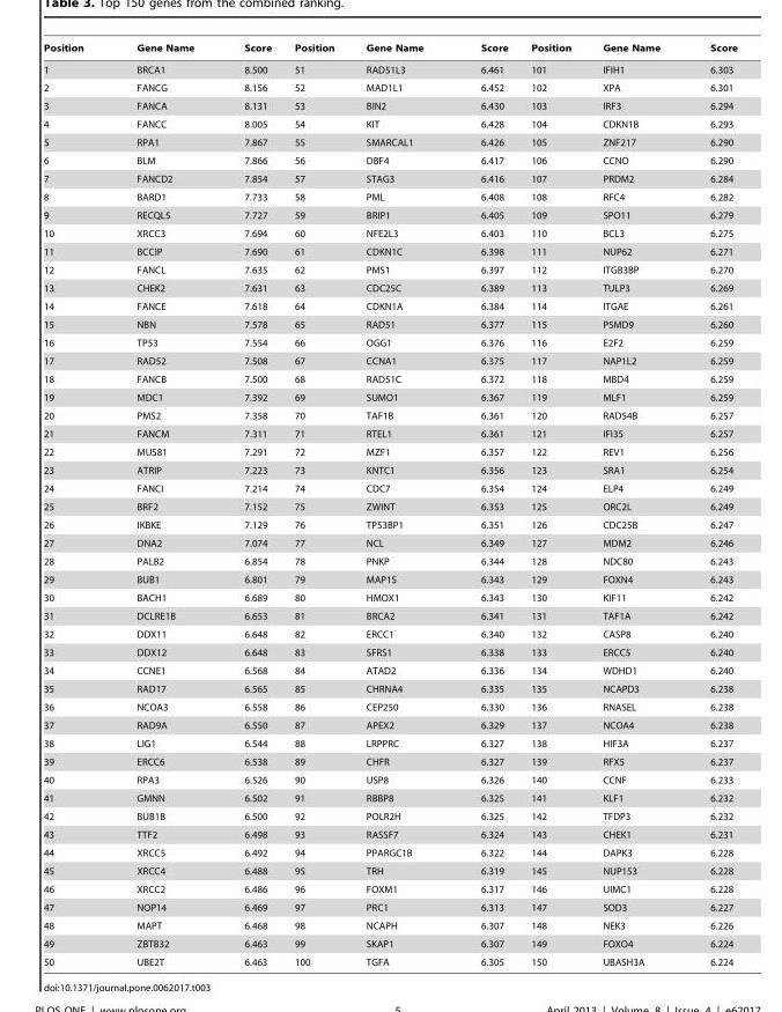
<table><thead><tr><td>Position</td><td>Gene Name</td><td>Score</td><td>Position</td><td>Gene Name</td><td>Score</td><td>Position</td><td>Gene Name</td><td>Score</td></tr></thead><tbody><tr><td>1</td><td>BRCA1</td><td>8.500</td><td>51</td><td>RAD51L3</td><td>6.461</td><td>101</td><td>IFIH1</td><td>6.303</td></tr><tr><td>2</td><td>FANCG</td><td>8.156</td><td>52</td><td>MAD1L1</td><td>6.452</td><td>102</td><td>XPA</td><td>6.301</td></tr><tr><td>3</td><td>FANCA</td><td>8.131</td><td>53</td><td>BIN2</td><td>6.430</td><td>103</td><td>IRF3</td><td>6.294</td></tr><tr><td>4</td><td>FANCC</td><td>8.005</td><td>54</td><td>KIT</td><td>6.428</td><td>104</td><td>CDKN1B</td><td>6.293</td></tr><tr><td>5</td><td>RPA1</td><td>7.867</td><td>55</td><td>SMARCAL1</td><td>6.426</td><td>105</td><td>ZNF217</td><td>6.290</td></tr><tr><td>6</td><td>BLM</td><td>7.866</td><td>56</td><td>DBF4</td><td>6.417</td><td>106</td><td>CCNO</td><td>6.290</td></tr><tr><td>7</td><td>FANCD2</td><td>7.854</td><td>57</td><td>STAG3</td><td>6.416</td><td>107</td><td>PRDM2</td><td>6.284</td></tr><tr><td>8</td><td>BARD1</td><td>7.733</td><td>58</td><td>PML</td><td>6.408</td><td>108</td><td>RFC4</td><td>6.282</td></tr><tr><td>9</td><td>RECQL5</td><td>7.727</td><td>59</td><td>BRIP1</td><td>6.405</td><td>109</td><td>SPO11</td><td>6.279</td></tr><tr><td>10</td><td>XRCC3</td><td>7.694</td><td>60</td><td>NFE2L3</td><td>6.403</td><td>110</td><td>BCL3</td><td>6.275</td></tr><tr><td>11</td><td>BCCIP</td><td>7.690</td><td>61</td><td>CDKN1C</td><td>6.398</td><td>111</td><td>NUP62</td><td>6.271</td></tr><tr><td>12</td><td>FANCL</td><td>7.635</td><td>62</td><td>PMS1</td><td>6.397</td><td>112</td><td>ITGB3BP</td><td>6.270</td></tr><tr><td>13</td><td>CHEK2</td><td>7.631</td><td>63</td><td>CDC25C</td><td>6.389</td><td>113</td><td>TULP3</td><td>6.269</td></tr><tr><td>14</td><td>FANCE</td><td>7.618</td><td>64</td><td>CDKN1A</td><td>6.384</td><td>114</td><td>ITGAE</td><td>6.261</td></tr><tr><td>15</td><td>NBN</td><td>7.578</td><td>65</td><td>RAD51</td><td>6.377</td><td>115</td><td>PSMD9</td><td>6.260</td></tr><tr><td>16</td><td>TP53</td><td>7.554</td><td>66</td><td>OGG1</td><td>6.376</td><td>116</td><td>E2F2</td><td>6.259</td></tr><tr><td>17</td><td>RAD52</td><td>7.508</td><td>67</td><td>CCNA1</td><td>6.375</td><td>117</td><td>NAP1L2</td><td>6.259</td></tr><tr><td>18</td><td>FANCB</td><td>7.500</td><td>68</td><td>RAD51C</td><td>6.372</td><td>118</td><td>MBD4</td><td>6.259</td></tr><tr><td>19</td><td>MDC1</td><td>7.392</td><td>69</td><td>SUMO1</td><td>6.367</td><td>119</td><td>MLF1</td><td>6.259</td></tr><tr><td>20</td><td>PMS2</td><td>7.358</td><td>70</td><td>TAF1B</td><td>6.361</td><td>120</td><td>RAD54B</td><td>6.257</td></tr><tr><td>21</td><td>FANCM</td><td>7.311</td><td>71</td><td>RTEL1</td><td>6.361</td><td>121</td><td>IFI35</td><td>6.257</td></tr><tr><td>22</td><td>MUS81</td><td>7.291</td><td>72</td><td>MZF1</td><td>6.357</td><td>122</td><td>REV1</td><td>6.256</td></tr><tr><td>23</td><td>ATRIP</td><td>7.223</td><td>73</td><td>KNTC1</td><td>6.356</td><td>123</td><td>SRA1</td><td>6.254</td></tr><tr><td>24</td><td>FANCI</td><td>7.214</td><td>74</td><td>CDC7</td><td>6.354</td><td>124</td><td>ELP4</td><td>6.249</td></tr><tr><td>25</td><td>BRF2</td><td>7.152</td><td>75</td><td>ZWINT</td><td>6.353</td><td>125</td><td>ORC2L</td><td>6.249</td></tr><tr><td>26</td><td>IKBKE</td><td>7.129</td><td>76</td><td>TP53BP1</td><td>6.351</td><td>126</td><td>CDC25B</td><td>6.247</td></tr><tr><td>27</td><td>DNA2</td><td>7.074</td><td>77</td><td>NCL</td><td>6.349</td><td>127</td><td>MDM2</td><td>6.246</td></tr><tr><td>28</td><td>PALB2</td><td>6.854</td><td>78</td><td>PNKP</td><td>6.344</td><td>128</td><td>NDC80</td><td>6.243</td></tr><tr><td>29</td><td>BUB1</td><td>6.801</td><td>79</td><td>MAP1S</td><td>6.343</td><td>129</td><td>FOXN4</td><td>6.243</td></tr><tr><td>30</td><td>BACH1</td><td>6.689</td><td>80</td><td>HMOX1</td><td>6.343</td><td>130</td><td>KIF11</td><td>6.242</td></tr><tr><td>31</td><td>DCLRE1B</td><td>6.653</td><td>81</td><td>BRCA2</td><td>6.341</td><td>131</td><td>TAF1A</td><td>6.242</td></tr><tr><td>32</td><td>DDX11</td><td>6.648</td><td>82</td><td>ERCC1</td><td>6.340</td><td>132</td><td>CASP8</td><td>6.240</td></tr><tr><td>33</td><td>DDX12</td><td>6.648</td><td>83</td><td>SFRS1</td><td>6.338</td><td>133</td><td>ERCC5</td><td>6.240</td></tr><tr><td>34</td><td>CCNE1</td><td>6.568</td><td>84</td><td>ATAD2</td><td>6.336</td><td>134</td><td>WDHD1</td><td>6.240</td></tr><tr><td>35</td><td>RAD17</td><td>6.565</td><td>85</td><td>CHRNA4</td><td>6.335</td><td>135</td><td>NCAPD3</td><td>6.238</td></tr><tr><td>36</td><td>NCOA3</td><td>6.558</td><td>86</td><td>CEP250</td><td>6.330</td><td>136</td><td>RNASEL</td><td>6.238</td></tr><tr><td>37</td><td>RAD9A</td><td>6.550</td><td>87</td><td>APEX2</td><td>6.329</td><td>137</td><td>NCOA4</td><td>6.238</td></tr><tr><td>38</td><td>LIG1</td><td>6.544</td><td>88</td><td>LRPPRC</td><td>6.327</td><td>138</td><td>HIF3A</td><td>6.237</td></tr><tr><td>39</td><td>ERCC6</td><td>6.538</td><td>89</td><td>CHFR</td><td>6.327</td><td>139</td><td>RFX5</td><td>6.237</td></tr><tr><td>40</td><td>RPA3</td><td>6.526</td><td>90</td><td>USP8</td><td>6.326</td><td>140</td><td>CCNF</td><td>6.233</td></tr><tr><td>41</td><td>GMNN</td><td>6.502</td><td>91</td><td>RBBP8</td><td>6.325</td><td>141</td><td>KLF1</td><td>6.232</td></tr><tr><td>42</td><td>BUB1B</td><td>6.500</td><td>92</td><td>POLR2H</td><td>6.325</td><td>142</td><td>TFDP3</td><td>6.232</td></tr><tr><td>43</td><td>TTF2</td><td>6.498</td><td>93</td><td>RASSF7</td><td>6.324</td><td>143</td><td>CHEK1</td><td>6.231</td></tr><tr><td>44</td><td>XRCC5</td><td>6.492</td><td>94</td><td>PPARGC1B</td><td>6.322</td><td>144</td><td>DAPK3</td><td>6.228</td></tr><tr><td>45</td><td>XRCC4</td><td>6.488</td><td>95</td><td>TRH</td><td>6.319</td><td>145</td><td>NUP153</td><td>6.228</td></tr><tr><td>46</td><td>XRCC2</td><td>6.486</td><td>96</td><td>FOXM1</td><td>6.317</td><td>146</td><td>UIMC1</td><td>6.228</td></tr><tr><td>47</td><td>NOP14</td><td>6.469</td><td>97</td><td>PRC1</td><td>6.313</td><td>147</td><td>SOD3</td><td>6.227</td></tr><tr><td>48</td><td>MAPT</td><td>6.468</td><td>98</td><td>NCAPH</td><td>6.307</td><td>148</td><td>NEK3</td><td>6.226</td></tr><tr><td>49</td><td>ZBTB32</td><td>6.463</td><td>99</td><td>SKAP1</td><td>6.307</td><td>149</td><td>FOXO4</td><td>6.224</td></tr><tr><td>50</td><td>UBE2T</td><td>6.463</td><td>100</td><td>TGFA</td><td>6.305</td><td>150</td><td>UBASH3A</td><td>6.224</td></tr></tbody></table>